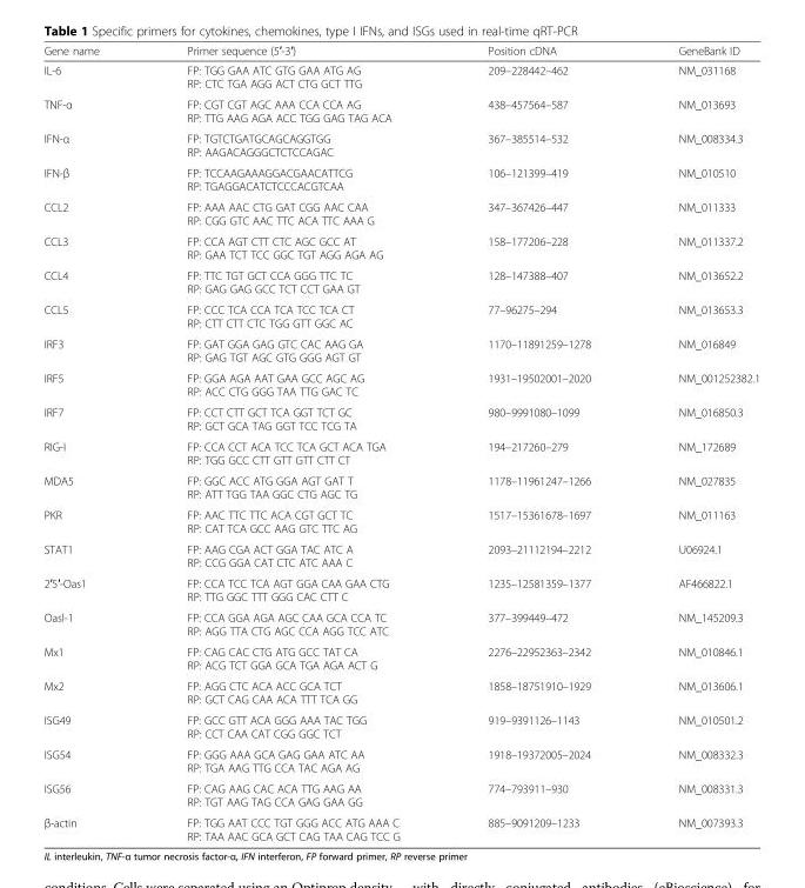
<table><thead><tr><td>Gene name</td><td>Primer sequence (5′-3′)</td><td>Position cDNA</td><td>GeneBank ID</td></tr></thead><tbody><tr><td>IL-6</td><td>FP: TGG GAA ATC GTG GAA ATG AG RP: CTC TGA AGG ACT CTG GCT TTG</td><td>209–228442–462</td><td>NM_031168</td></tr><tr><td>TNF-α</td><td>FP: CGT CGT AGC AAA CCA CCA AG RP: TTG AAG AGA ACC TGG GAG TAG ACA</td><td>438–457564–587</td><td>NM_013693</td></tr><tr><td>IFN-α</td><td>FP: TGTCTGATGCAGCAGGTGG RP: AAGACAGGGCTCTCCAGAC</td><td>367–385514–532</td><td>NM_008334.3</td></tr><tr><td>IFN-β</td><td>FP: TCCAAGAAAGGACGAACATTCG RP: TGAGGACATCTCCCACGTCAA</td><td>106–121399–419</td><td>NM_010510</td></tr><tr><td>CCL2</td><td>FP: AAA AAC CTG GAT CGG AAC CAA RP: CGG GTC AAC TTC ACA TTC AAA G</td><td>347–367426–447</td><td>NM_011333</td></tr><tr><td>CCL3</td><td>FP: CCA AGT CTT CTC AGC GCC AT RP: GAA TCT TCC GGC TGT AGG AGA AG</td><td>158–177206–228</td><td>NM_011337.2</td></tr><tr><td>CCL4</td><td>FP: TTC TGT GCT CCA GGG TTC TC RP: GAG GAG GCC TCT CCT GAA GT</td><td>128–147388–407</td><td>NM_013652.2</td></tr><tr><td>CCL5</td><td>FP: CCC TCA CCA TCA TCC TCA CT RP: CTT CTT CTC TGG GTT GGC AC</td><td>77–96275–294</td><td>NM_013653.3</td></tr><tr><td>IRF3</td><td>FP: GAT GGA GAG GTC CAC AAG GA RP: GAG TGT AGC GTG GGG AGT GT</td><td>1170–11891259–1278</td><td>NM_016849</td></tr><tr><td>IRF5</td><td>FP: GGA AGA AAT GAA GCC AGC AG RP: ACC CTG GGG TAA TTG GAC TC</td><td>1931–19502001–2020</td><td>NM_001252382.1</td></tr><tr><td>IRF7</td><td>FP: CCT CTT GCT TCA GGT TCT GC RP: GCT GCA TAG GGT TCC TCG TA</td><td>980–9991080–1099</td><td>NM_016850.3</td></tr><tr><td>RIG-I</td><td>FP: CCA CCT ACA TCC TCA GCT ACA TGA RP: TGG GCC CTT GTT GTT CTT CT</td><td>194–217260–279</td><td>NM_172689</td></tr><tr><td>MDA5</td><td>FP: GGC ACC ATG GGA AGT GAT T RP: ATT TGG TAA GGC CTG AGC TG</td><td>1178–11961247–1266</td><td>NM_027835</td></tr><tr><td>PKR</td><td>FP: AAC TTC TTC ACA CGT GCT TC RP: CAT TCA GCC AAG GTC TTC AG</td><td>1517–15361678–1697</td><td>NM_011163</td></tr><tr><td>STAT1</td><td>FP: AAG CGA ACT GGA TAC ATC A RP: CCG GGA CAT CTC ATC AAA C</td><td>2093–21112194–2212</td><td>U06924.1</td></tr><tr><td>2′5′-Oas1</td><td>FP: CCA TCC TCA AGT GGA CAA GAA CTG RP: TTG GGC TTT GGG CAC CTT C</td><td>1235–12581359–1377</td><td>AF466822.1</td></tr><tr><td>Oasl-1</td><td>FP: CCA GGA AGA AGC CAA GCA CCA TC RP: AGG TTA CTG AGC CCA AGG TCC ATC</td><td>377–399449–472</td><td>NM_145209.3</td></tr><tr><td>Mx1</td><td>FP: CAG CAC CTG ATG GCC TAT CA RP: ACG TCT GGA GCA TGA AGA ACT G</td><td>2276–22952363–2342</td><td>NM_010846.1</td></tr><tr><td>Mx2</td><td>FP: AGG CTC ACA ACC GCA TCT RP: GCT CAG CAA ACA TTT TCA GG</td><td>1858–18751910–1929</td><td>NM_013606.1</td></tr><tr><td>ISG49</td><td>FP: GCC GTT ACA GGG AAA TAC TGG RP: CCT CAA CAT CGG GGC TCT</td><td>919–9391126–1143</td><td>NM_010501.2</td></tr><tr><td>ISG54</td><td>FP: GGG AAA GCA GAG GAA ATC AA RP: TGA AAG TTG CCA TAC AGA AG</td><td>1918–19372005–2024</td><td>NM_008332.3</td></tr><tr><td>ISG56</td><td>FP: CAG AAG CAC ACA TTG AAG AA RP: TGT AAG TAG CCA GAG GAA GG</td><td>774–793911–930</td><td>NM_008331.3</td></tr><tr><td>β-actin</td><td>FP: TGG AAT CCC TGT GGG ACC ATG AAA C RP: TAA AAC GCA GCT CAG TAA CAG TCC G</td><td>885–9091209–1233</td><td>NM_007393.3</td></tr></tbody></table>